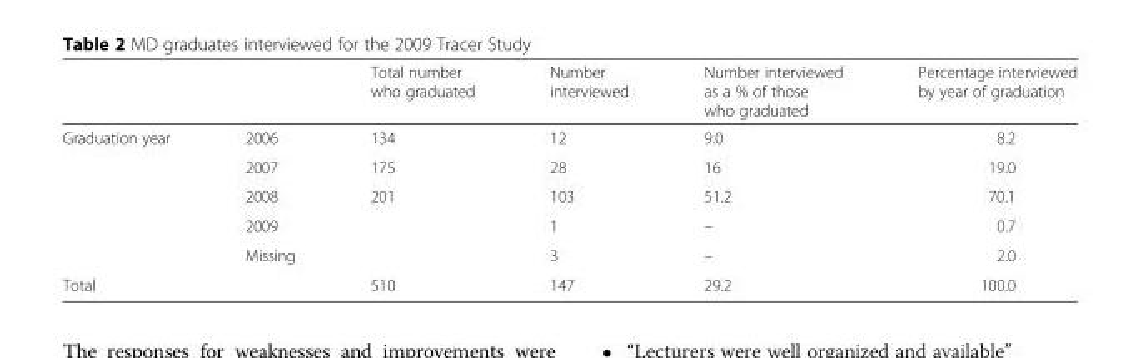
<table><thead><tr><td></td><td></td><td>Total number who graduated</td><td>Number interviewed</td><td>Number interviewed as a % of those who graduated</td><td>Percentage interviewed by year of graduation</td></tr></thead><tbody><tr><td rowspan="5">Graduation year</td><td>2006</td><td>134</td><td>12</td><td>9.0</td><td>8.2</td></tr><tr><td>2007</td><td>175</td><td>28</td><td>16</td><td>19.0</td></tr><tr><td>2008</td><td>201</td><td>103</td><td>51.2</td><td>70.1</td></tr><tr><td>2009</td><td></td><td>1</td><td>–</td><td>0.7</td></tr><tr><td>Missing</td><td></td><td>3</td><td>–</td><td>2.0</td></tr><tr><td>Total</td><td></td><td>510</td><td>147</td><td>29.2</td><td>100.0</td></tr></tbody></table>